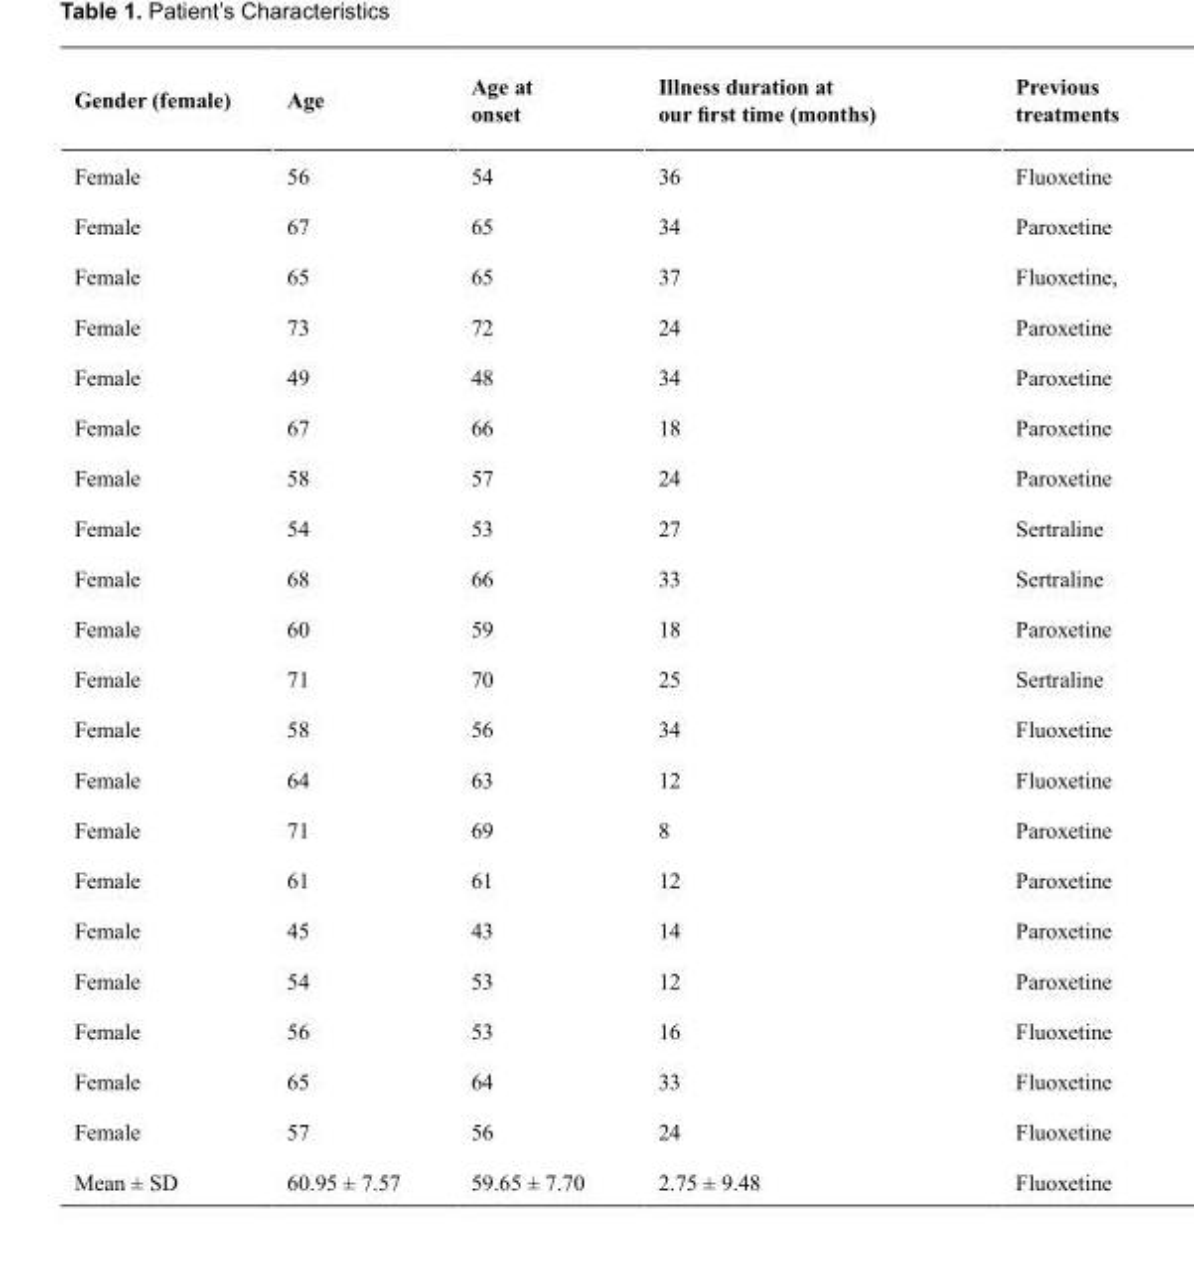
<table><thead><tr><td>Gender (female)</td><td>Age</td><td>Age at onset</td><td>Illness duration at our first time (months)</td><td>Previous treatments</td></tr></thead><tbody><tr><td>Female</td><td>56</td><td>54</td><td>36</td><td>Fluoxetine</td></tr><tr><td>Female</td><td>67</td><td>65</td><td>34</td><td>Paroxetine</td></tr><tr><td>Female</td><td>65</td><td>65</td><td>37</td><td>Fluoxetine,</td></tr><tr><td>Female</td><td>73</td><td>72</td><td>24</td><td>Paroxetine</td></tr><tr><td>Female</td><td>49</td><td>48</td><td>34</td><td>Paroxetine</td></tr><tr><td>Female</td><td>67</td><td>66</td><td>18</td><td>Paroxetine</td></tr><tr><td>Female</td><td>58</td><td>57</td><td>24</td><td>Paroxetine</td></tr><tr><td>Female</td><td>54</td><td>53</td><td>27</td><td>Sertraline</td></tr><tr><td>Female</td><td>68</td><td>66</td><td>33</td><td>Sertraline</td></tr><tr><td>Female</td><td>60</td><td>59</td><td>18</td><td>Paroxetine</td></tr><tr><td>Female</td><td>71</td><td>70</td><td>25</td><td>Sertraline</td></tr><tr><td>Female</td><td>58</td><td>56</td><td>34</td><td>Fluoxetine</td></tr><tr><td>Female</td><td>64</td><td>63</td><td>12</td><td>Fluoxetine</td></tr><tr><td>Female</td><td>71</td><td>69</td><td>8</td><td>Paroxetine</td></tr><tr><td>Female</td><td>61</td><td>61</td><td>12</td><td>Paroxetine</td></tr><tr><td>Female</td><td>45</td><td>43</td><td>14</td><td>Paroxetine</td></tr><tr><td>Female</td><td>54</td><td>53</td><td>12</td><td>Paroxetine</td></tr><tr><td>Female</td><td>56</td><td>53</td><td>16</td><td>Fluoxetine</td></tr><tr><td>Female</td><td>65</td><td>64</td><td>33</td><td>Fluoxetine</td></tr><tr><td>Female</td><td>57</td><td>56</td><td>24</td><td>Fluoxetine</td></tr><tr><td>Mean ± SD</td><td>60.95 ± 7.57</td><td>59.65 ± 7.70</td><td>2.75 ± 9.48</td><td>Fluoxetine</td></tr></tbody></table>